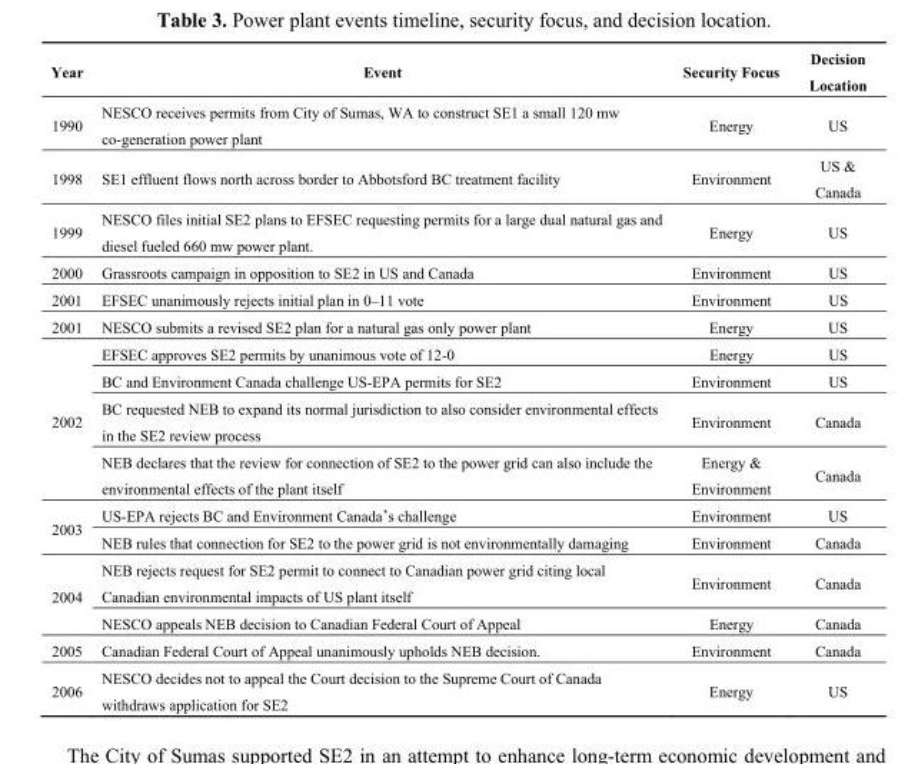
<table><thead><tr><td>Year</td><td>Event</td><td>Security Focus</td><td>Decision Location</td></tr></thead><tbody><tr><td>1990</td><td>NESCO receives permits from City of Sumas, WA to construct SE1 a small 120 mw co-generation power plant</td><td>Energy</td><td>US</td></tr><tr><td>1998</td><td>SE1 effluent flows north across border to Abbotsford BC treatment facility</td><td>Environment</td><td>US &amp; Canada</td></tr><tr><td>1999</td><td>NESCO files initial SE2 plans to EFSEC requesting permits for a large dual natural gas and diesel fueled 660 mw power plant.</td><td>Energy</td><td>US</td></tr><tr><td>2000</td><td>Grassroots campaign in opposition to SE2 in US and Canada</td><td>Environment</td><td>US</td></tr><tr><td>2001</td><td>EFSEC unanimously rejects initial plan in 0–11 vote</td><td>Environment</td><td>US</td></tr><tr><td>2001</td><td>NESCO submits a revised SE2 plan for a natural gas only power plant</td><td>Energy</td><td>US</td></tr><tr><td rowspan="4">2002</td><td>EFSEC approves SE2 permits by unanimous vote of 12-0</td><td>Energy</td><td>US</td></tr><tr><td>BC and Environment Canada challenge US-EPA permits for SE2</td><td>Environment</td><td>US</td></tr><tr><td>BC requested NEB to expand its normal jurisdiction to also consider environmental effects in the SE2 review process</td><td>Environment</td><td>Canada</td></tr><tr><td>NEB declares that the review for connection of SE2 to the power grid can also include the environmental effects of the plant itself</td><td>Energy &amp; Environment</td><td>Canada</td></tr><tr><td rowspan="2">2003</td><td>US-EPA rejects BC and Environment Canada’s challenge</td><td>Environment</td><td>US</td></tr><tr><td>NEB rules that connection for SE2 to the power grid is not environmentally damaging</td><td>Environment</td><td>Canada</td></tr><tr><td rowspan="2">2004</td><td>NEB rejects request for SE2 permit to connect to Canadian power grid citing local Canadian environmental impacts of US plant itself</td><td>Environment</td><td>Canada</td></tr><tr><td>NESCO appeals NEB decision to Canadian Federal Court of Appeal</td><td>Energy</td><td>Canada</td></tr><tr><td>2005</td><td>Canadian Federal Court of Appeal unanimously upholds NEB decision.</td><td>Environment</td><td>Canada</td></tr><tr><td>2006</td><td>NESCO decides not to appeal the Court decision to the Supreme Court of Canada withdraws application for SE2</td><td>Energy</td><td>US</td></tr></tbody></table>